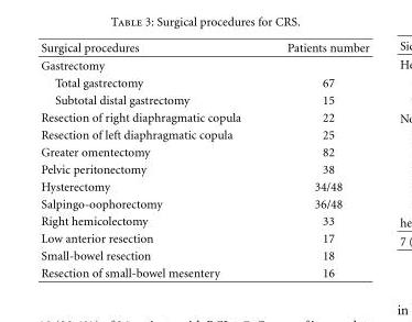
<table><thead><tr><td>Surgical procedures</td><td>Patients number</td></tr></thead><tbody><tr><td colspan="2">Gastrectomy</td></tr><tr><td>Total gastrectomy</td><td>67</td></tr><tr><td>Subtotal distal gastrectomy</td><td>15</td></tr><tr><td>Resection of right diaphragmatic copula</td><td>22</td></tr><tr><td>Resection of left diaphragmatic copula</td><td>25</td></tr><tr><td>Greater omentectomy</td><td>82</td></tr><tr><td>Pelvic peritonectomy</td><td>38</td></tr><tr><td>Hysterectomy</td><td>34/48</td></tr><tr><td>Salpingo-oophorectomy</td><td>36/48</td></tr><tr><td>Right hemicolectomy</td><td>33</td></tr><tr><td>Low anterior resection</td><td>17</td></tr><tr><td>Small-bowel resection</td><td>18</td></tr><tr><td>Resection of small-bowel mesentery</td><td>16</td></tr></tbody></table>